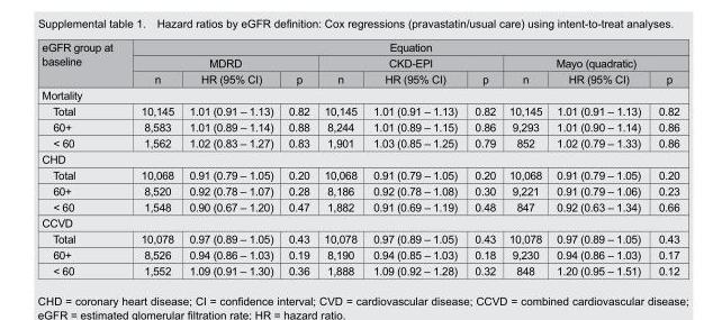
<table><thead><tr><td rowspan="3">eGFR group at baseline</td><td colspan="9">Equation</td></tr><tr><td colspan="3">MDRD</td><td colspan="3">CKD-EPI</td><td colspan="3">Mayo (quadratic)</td></tr><tr><td>n</td><td>HR (95% CI)</td><td>p</td><td>n</td><td>HR (95% CI)</td><td>p</td><td>n</td><td>HR (95% CI)</td><td>p</td></tr></thead><tbody><tr><td colspan="10">Mortality</td></tr><tr><td>Total</td><td>10,145</td><td>1.01 (0.91 – 1.13)</td><td>0.82</td><td>10,145</td><td>1.01 (0.91 – 1.13)</td><td>0.82</td><td>10,145</td><td>1.01 (0.91 – 1.13)</td><td>0.82</td></tr><tr><td>60+</td><td>8,583</td><td>1.01 (0.89 – 1.14)</td><td>0.88</td><td>8,244</td><td>1.01 (0.89 – 1.15)</td><td>0.86</td><td>9,293</td><td>1.01 (0.90 – 1.14)</td><td>0.86</td></tr><tr><td>&lt; 60</td><td>1,562</td><td>1.02 (0.83 – 1.27)</td><td>0.83</td><td>1,901</td><td>1.03 (0.85 – 1.25)</td><td>0.79</td><td>852</td><td>1.02 (0.79 – 1.33)</td><td>0.86</td></tr><tr><td colspan="10">CHD</td></tr><tr><td>Total</td><td>10,068</td><td>0.91 (0.79 – 1.05)</td><td>0.20</td><td>10,068</td><td>0.91 (0.79 – 1.05)</td><td>0.20</td><td>10,068</td><td>0.91 (0.79 – 1.05)</td><td>0.20</td></tr><tr><td>60+</td><td>8,520</td><td>0.92 (0.78 – 1.07)</td><td>0.28</td><td>8,186</td><td>0.92 (0.78 – 1.08)</td><td>0.30</td><td>9,221</td><td>0.91 (0.79 – 1.06)</td><td>0.23</td></tr><tr><td>&lt; 60</td><td>1,548</td><td>0.90 (0.67 – 1.20)</td><td>0.47</td><td>1,882</td><td>0.91 (0.69 – 1.19)</td><td>0.48</td><td>847</td><td>0.92 (0.63 – 1.34)</td><td>0.66</td></tr><tr><td colspan="10">CCVD</td></tr><tr><td>Total</td><td>10,078</td><td>0.97 (0.89 – 1.05)</td><td>0.43</td><td>10,078</td><td>0.97 (0.89 – 1.05)</td><td>0.43</td><td>10,078</td><td>0.97 (0.89 – 1.05)</td><td>0.43</td></tr><tr><td>60+</td><td>8,526</td><td>0.94 (0.86 – 1.03)</td><td>0.19</td><td>8,190</td><td>0.94 (0.85 – 1.03)</td><td>0.18</td><td>9,230</td><td>0.94 (0.86 – 1.03)</td><td>0.17</td></tr><tr><td>&lt; 60</td><td>1,552</td><td>1.09 (0.91 – 1.30)</td><td>0.36</td><td>1,888</td><td>1.09 (0.92 – 1.28)</td><td>0.32</td><td>848</td><td>1.20 (0.95 – 1.51)</td><td>0.12</td></tr></tbody></table>